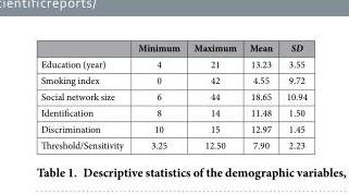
<table><thead><tr><td></td><td>Minimum</td><td>Maximum</td><td>Mean</td><td>SD</td></tr></thead><tbody><tr><td>Education (year)</td><td>4</td><td>21</td><td>13.23</td><td>3.55</td></tr><tr><td>Smoking index</td><td>0</td><td>42</td><td>4.55</td><td>9.72</td></tr><tr><td>Social network size</td><td>6</td><td>44</td><td>18.65</td><td>10.94</td></tr><tr><td>Identification</td><td>8</td><td>14</td><td>11.48</td><td>1.50</td></tr><tr><td>Discrimination</td><td>10</td><td>15</td><td>12.97</td><td>1.45</td></tr><tr><td>Threshold/Sensitivity</td><td>3.25</td><td>12.50</td><td>7.90</td><td>2.23</td></tr></tbody></table>